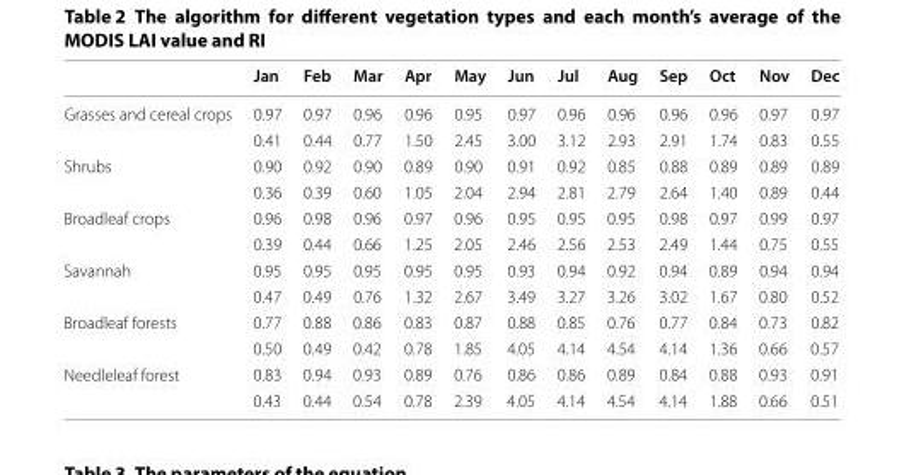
<table><thead><tr><td></td><td>Jan</td><td>Feb</td><td>Mar</td><td>Apr</td><td>May</td><td>Jun</td><td>Jul</td><td>Aug</td><td>Sep</td><td>Oct</td><td>Nov</td><td>Dec</td></tr></thead><tbody><tr><td rowspan="2">Grasses and cereal crops</td><td>0.97</td><td>0.97</td><td>0.96</td><td>0.96</td><td>0.95</td><td>0.97</td><td>0.96</td><td>0.96</td><td>0.96</td><td>0.96</td><td>0.97</td><td>0.97</td></tr><tr><td>0.41</td><td>0.44</td><td>0.77</td><td>1.50</td><td>2.45</td><td>3.00</td><td>3.12</td><td>2.93</td><td>2.91</td><td>1.74</td><td>0.83</td><td>0.55</td></tr><tr><td rowspan="2">Shrubs</td><td>0.90</td><td>0.92</td><td>0.90</td><td>0.89</td><td>0.90</td><td>0.91</td><td>0.92</td><td>0.85</td><td>0.88</td><td>0.89</td><td>0.89</td><td>0.89</td></tr><tr><td>0.36</td><td>0.39</td><td>0.60</td><td>1.05</td><td>2.04</td><td>2.94</td><td>2.81</td><td>2.79</td><td>2.64</td><td>1.40</td><td>0.89</td><td>0.44</td></tr><tr><td rowspan="2">Broadleaf crops</td><td>0.96</td><td>0.98</td><td>0.96</td><td>0.97</td><td>0.96</td><td>0.95</td><td>0.95</td><td>0.95</td><td>0.98</td><td>0.97</td><td>0.99</td><td>0.97</td></tr><tr><td>0.39</td><td>0.44</td><td>0.66</td><td>1.25</td><td>2.05</td><td>2.46</td><td>2.56</td><td>2.53</td><td>2.49</td><td>1.44</td><td>0.75</td><td>0.55</td></tr><tr><td rowspan="2">Savannah</td><td>0.95</td><td>0.95</td><td>0.95</td><td>0.95</td><td>0.95</td><td>0.93</td><td>0.94</td><td>0.92</td><td>0.94</td><td>0.89</td><td>0.94</td><td>0.94</td></tr><tr><td>0.47</td><td>0.49</td><td>0.76</td><td>1.32</td><td>2.67</td><td>3.49</td><td>3.27</td><td>3.26</td><td>3.02</td><td>1.67</td><td>0.80</td><td>0.52</td></tr><tr><td rowspan="2">Broadleaf forests</td><td>0.77</td><td>0.88</td><td>0.86</td><td>0.83</td><td>0.87</td><td>0.88</td><td>0.85</td><td>0.76</td><td>0.77</td><td>0.84</td><td>0.73</td><td>0.82</td></tr><tr><td>0.50</td><td>0.49</td><td>0.42</td><td>0.78</td><td>1.85</td><td>4.05</td><td>4.14</td><td>4.54</td><td>4.14</td><td>1.36</td><td>0.66</td><td>0.57</td></tr><tr><td rowspan="2">Needleleaf forest</td><td>0.83</td><td>0.94</td><td>0.93</td><td>0.89</td><td>0.76</td><td>0.86</td><td>0.86</td><td>0.89</td><td>0.84</td><td>0.88</td><td>0.93</td><td>0.91</td></tr><tr><td>0.43</td><td>0.44</td><td>0.54</td><td>0.78</td><td>2.39</td><td>4.05</td><td>4.14</td><td>4.54</td><td>4.14</td><td>1.88</td><td>0.66</td><td>0.51</td></tr></tbody></table>